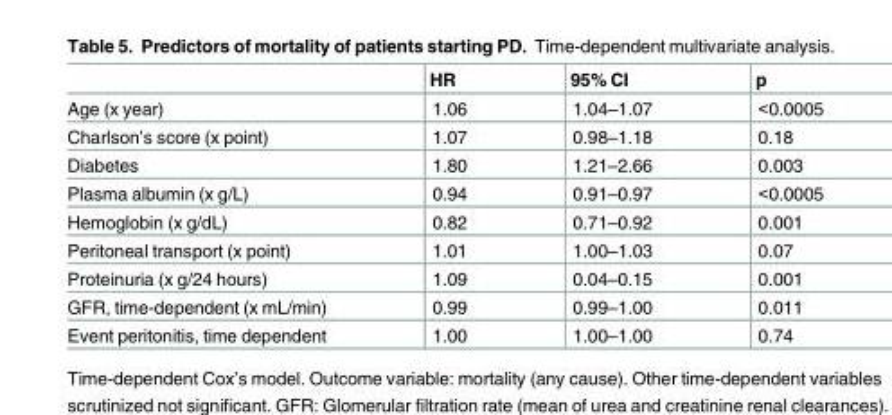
<table><thead><tr><td></td><td>HR</td><td>95% CI</td><td>p</td></tr></thead><tbody><tr><td>Age (x year)</td><td>1.06</td><td>1.04–1.07</td><td>&lt;0.0005</td></tr><tr><td>Charlson’s score (x point)</td><td>1.07</td><td>0.98–1.18</td><td>0.18</td></tr><tr><td>Diabetes</td><td>1.80</td><td>1.21–2.66</td><td>0.003</td></tr><tr><td>Plasma albumin (x g/L)</td><td>0.94</td><td>0.91–0.97</td><td>&lt;0.0005</td></tr><tr><td>Hemoglobin (x g/dL)</td><td>0.82</td><td>0.71–0.92</td><td>0.001</td></tr><tr><td>Peritoneal transport (x point)</td><td>1.01</td><td>1.00–1.03</td><td>0.07</td></tr><tr><td>Proteinuria (x g/24 hours)</td><td>1.09</td><td>0.04–0.15</td><td>0.001</td></tr><tr><td>GFR, time-dependent (x mL/min)</td><td>0.99</td><td>0.99–1.00</td><td>0.011</td></tr><tr><td>Event peritonitis, time dependent</td><td>1.00</td><td>1.00–1.00</td><td>0.74</td></tr></tbody></table>